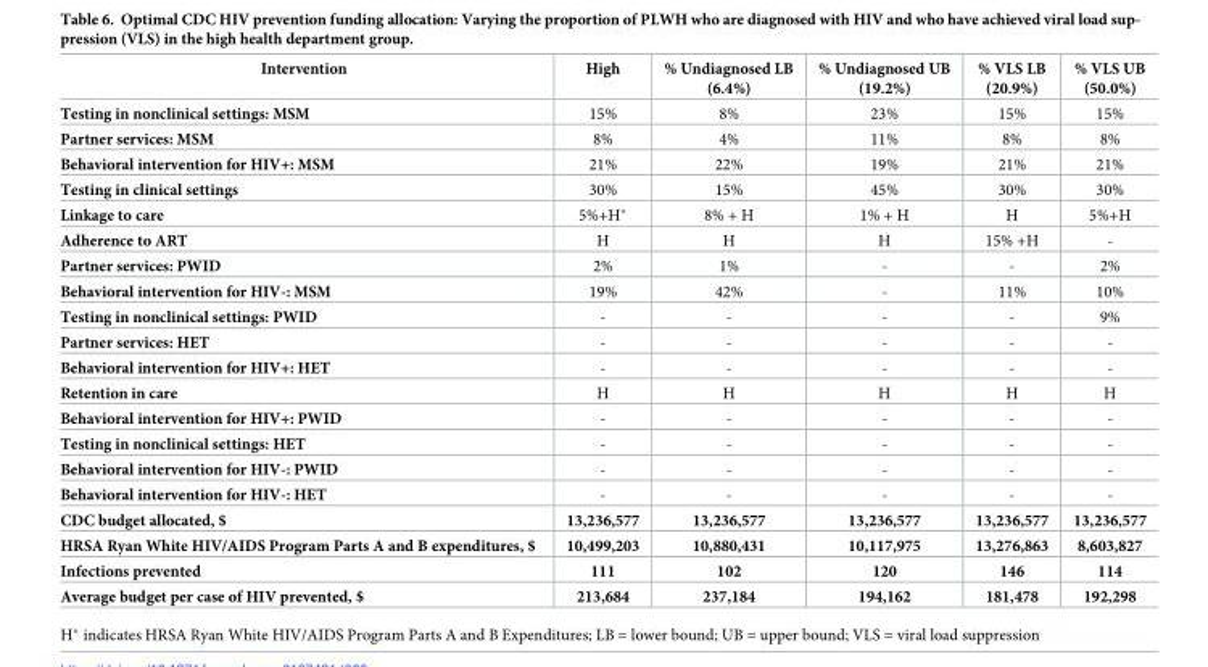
<table><thead><tr><td>Intervention</td><td>High</td><td>% Undiagnosed LB (6.4%)</td><td>% Undiagnosed UB (19.2%)</td><td>% VLS LB (20.9%)</td><td>% VLS UB (50.0%)</td></tr></thead><tbody><tr><td>Testing in nonclinical settings: MSM</td><td>15%</td><td>8%</td><td>23%</td><td>15%</td><td>15%</td></tr><tr><td>Partner services: MSM</td><td>8%</td><td>4%</td><td>11%</td><td>8%</td><td>8%</td></tr><tr><td>Behavioral intervention for HIV+: MSM</td><td>21%</td><td>22%</td><td>19%</td><td>21%</td><td>21%</td></tr><tr><td>Testing in clinical settings</td><td>30%</td><td>15%</td><td>45%</td><td>30%</td><td>30%</td></tr><tr><td>Linkage to care</td><td>5%+H*</td><td>8% + H</td><td>1% + H</td><td>H</td><td>5%+H</td></tr><tr><td>Adherence to ART</td><td>H</td><td>H</td><td>H</td><td>15% +H</td><td>-</td></tr><tr><td>Partner services: PWID</td><td>2%</td><td>1%</td><td>-</td><td>-</td><td>2%</td></tr><tr><td>Behavioral intervention for HIV-: MSM</td><td>19%</td><td>42%</td><td>-</td><td>11%</td><td>10%</td></tr><tr><td>Testing in nonclinical settings: PWID</td><td>-</td><td>-</td><td>-</td><td>-</td><td>9%</td></tr><tr><td>Partner services: HET</td><td>-</td><td>-</td><td>-</td><td>-</td><td>-</td></tr><tr><td>Behavioral intervention for HIV+: HET</td><td>-</td><td>-</td><td>-</td><td>-</td><td>-</td></tr><tr><td>Retention in care</td><td>H</td><td>H</td><td>H</td><td>H</td><td>H</td></tr><tr><td>Behavioral intervention for HIV+: PWID</td><td>-</td><td>-</td><td>-</td><td>-</td><td>-</td></tr><tr><td>Testing in nonclinical settings: HET</td><td>-</td><td>-</td><td>-</td><td>-</td><td>-</td></tr><tr><td>Behavioral intervention for HIV-: PWID</td><td>-</td><td>-</td><td>-</td><td>-</td><td>-</td></tr><tr><td>Behavioral intervention for HIV-: HET</td><td>-</td><td>-</td><td>-</td><td>-</td><td>-</td></tr><tr><td>CDC budget allocated, $</td><td>13,236,577</td><td>13,236,577</td><td>13,236,577</td><td>13,236,577</td><td>13,236,577</td></tr><tr><td>HRSA Ryan White HIV/AIDS Program Parts A and B expenditures, $</td><td>10,499,203</td><td>10,880,431</td><td>10,117,975</td><td>13,276,863</td><td>8,603,827</td></tr><tr><td>Infections prevented</td><td>111</td><td>102</td><td>120</td><td>146</td><td>114</td></tr><tr><td>Average budget per case of HIV prevented, $</td><td>213,684</td><td>237,184</td><td>194,162</td><td>181,478</td><td>192,298</td></tr></tbody></table>